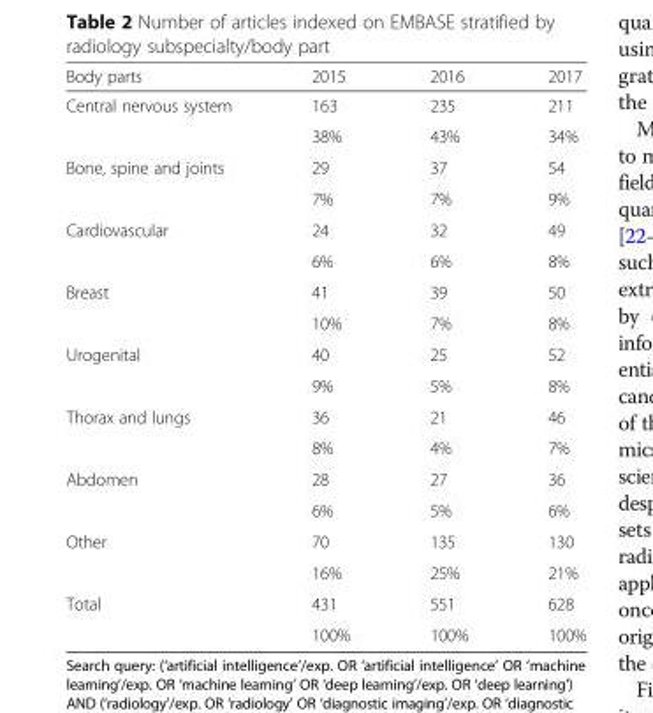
<table><thead><tr><td>Body parts</td><td>2015</td><td>2016</td><td>2017</td></tr></thead><tbody><tr><td rowspan="2">Central nervous system</td><td>163</td><td>235</td><td>211</td></tr><tr><td>38%</td><td>43%</td><td>34%</td></tr><tr><td rowspan="2">Bone, spine and joints</td><td>29</td><td>37</td><td>54</td></tr><tr><td>7%</td><td>7%</td><td>9%</td></tr><tr><td rowspan="2">Cardiovascular</td><td>24</td><td>32</td><td>49</td></tr><tr><td>6%</td><td>6%</td><td>8%</td></tr><tr><td rowspan="2">Breast</td><td>41</td><td>39</td><td>50</td></tr><tr><td>10%</td><td>7%</td><td>8%</td></tr><tr><td rowspan="2">Urogenital</td><td>40</td><td>25</td><td>52</td></tr><tr><td>9%</td><td>5%</td><td>8%</td></tr><tr><td rowspan="2">Thorax and lungs</td><td>36</td><td>21</td><td>46</td></tr><tr><td>8%</td><td>4%</td><td>7%</td></tr><tr><td rowspan="2">Abdomen</td><td>28</td><td>27</td><td>36</td></tr><tr><td>6%</td><td>5%</td><td>6%</td></tr><tr><td rowspan="2">Other</td><td>70</td><td>135</td><td>130</td></tr><tr><td>16%</td><td>25%</td><td>21%</td></tr><tr><td rowspan="2">Total</td><td>431</td><td>551</td><td>628</td></tr><tr><td>100%</td><td>100%</td><td>100%</td></tr></tbody></table>